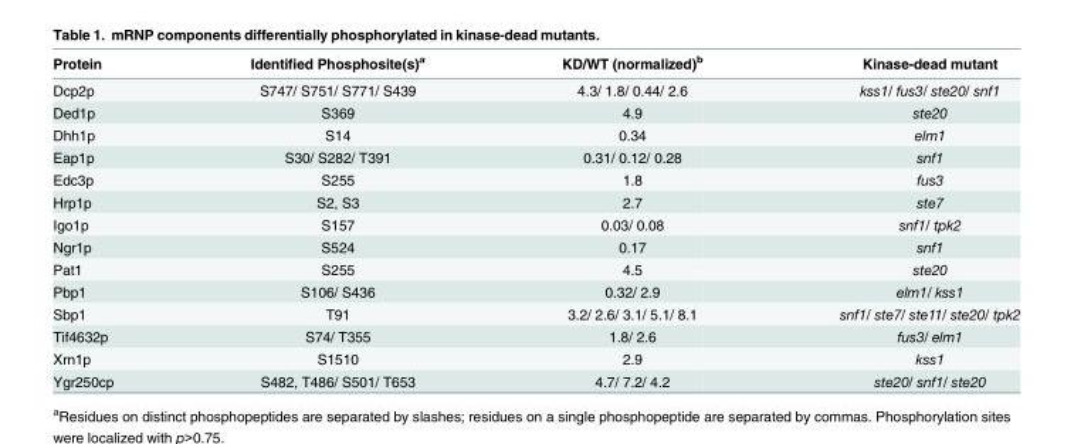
<table><thead><tr><td>Protein</td><td>Identified Phosphosite(s)<sup>a</sup></td><td>KD/WT (normalized)<sup>b</sup></td><td>Kinase-dead mutant</td></tr></thead><tbody><tr><td>Dcp2p</td><td>S747/ S751/ S771/ S439</td><td>4.3/ 1.8/ 0.44/ 2.6</td><td>kss1/ fus3/ ste20/ snf1</td></tr><tr><td>Ded1p</td><td>S369</td><td>4.9</td><td>ste20</td></tr><tr><td>Dhh1p</td><td>S14</td><td>0.34</td><td>elm1</td></tr><tr><td>Eap1p</td><td>S30/ S282/ T391</td><td>0.31/ 0.12/ 0.28</td><td>snf1</td></tr><tr><td>Edc3p</td><td>S255</td><td>1.8</td><td>fus3</td></tr><tr><td>Hrp1p</td><td>S2, S3</td><td>2.7</td><td>ste7</td></tr><tr><td>Igo1p</td><td>S157</td><td>0.03/ 0.08</td><td>snf1/ tpk2</td></tr><tr><td>Ngr1p</td><td>S524</td><td>0.17</td><td>snf1</td></tr><tr><td>Pat1</td><td>S255</td><td>4.5</td><td>ste20</td></tr><tr><td>Pbp1</td><td>S106/ S436</td><td>0.32/ 2.9</td><td>elm1/ kss1</td></tr><tr><td>Sbp1</td><td>T91</td><td>3.2/ 2.6/ 3.1/ 5.1/ 8.1</td><td>snf1/ ste7/ ste11/ ste20/ tpk2</td></tr><tr><td>Tif4632p</td><td>S74/ T355</td><td>1.8/ 2.6</td><td>fus3/ elm1</td></tr><tr><td>Xrn1p</td><td>S1510</td><td>2.9</td><td>kss1</td></tr><tr><td>Ygr250cp</td><td>S482, T486/ S501/ T653</td><td>4.7/ 7.2/ 4.2</td><td>ste20/ snf1/ ste20</td></tr></tbody></table>